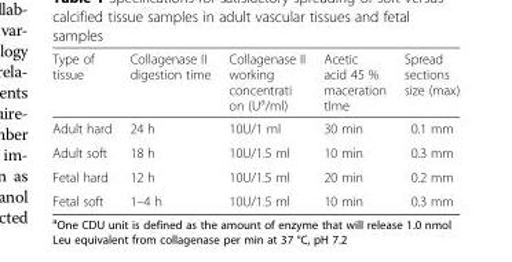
<table><thead><tr><td>Type of tissue</td><td>Collagenase II digestion time</td><td>Collagenase II working concentrati on (U<sup>a</sup>/ml)</td><td>Acetic acid 45 % maceration tIme</td><td>Spread sections size (max)</td></tr></thead><tbody><tr><td>Adult hard</td><td>24 h</td><td>10U/1 ml</td><td>30 min</td><td>0.1 mm</td></tr><tr><td>Adult soft</td><td>18 h</td><td>10U/1.5 ml</td><td>10 min</td><td>0.3 mm</td></tr><tr><td>Fetal hard</td><td>12 h</td><td>10U/1.5 ml</td><td>20 min</td><td>0.2 mm</td></tr><tr><td>Fetal soft</td><td>1–4 h</td><td>10U/1.5 ml</td><td>10 min</td><td>0.3 mm</td></tr></tbody></table>